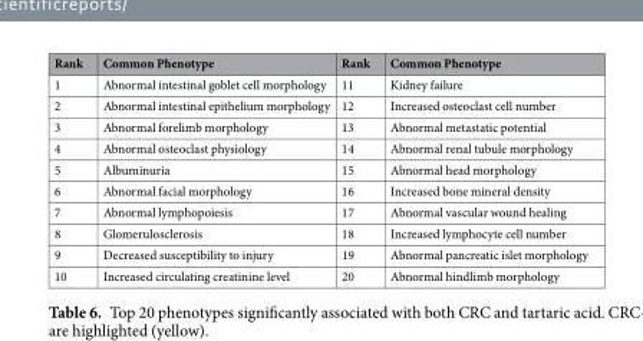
<table><thead><tr><td>Rank</td><td>Common Phenotype</td><td>Rank</td><td>Common Phenotype</td></tr></thead><tbody><tr><td>1</td><td>Abnormal intestinal goblet cell morphology</td><td>11</td><td>Kidney failure</td></tr><tr><td>2</td><td>Abnormal intestinal epithelium morphology</td><td>12</td><td>Increased osteoclast cell number</td></tr><tr><td>3</td><td>Abnormal forelimb morphology</td><td>13</td><td>Abnormal metastatic potential</td></tr><tr><td>4</td><td>Abnormal osteoclast physiology</td><td>14</td><td>Abnormal renal tubule morphology</td></tr><tr><td>5</td><td>Albuminuria</td><td>15</td><td>Abnormal head morphology</td></tr><tr><td>6</td><td>Abnormal facial morphology</td><td>16</td><td>Increased bone mineral density</td></tr><tr><td>7</td><td>Abnormal lymphopoiesis</td><td>17</td><td>Abnormal vascular wound healing</td></tr><tr><td>8</td><td>Glomerulosclerosis</td><td>18</td><td>Increased lymphocyte cell number</td></tr><tr><td>9</td><td>Decreased susceptibility to injury</td><td>19</td><td>Abnormal pancreatic islet morphology</td></tr><tr><td>10</td><td>Increased circulating creatinine level</td><td>20</td><td>Abnormal hindlimb morphology</td></tr></tbody></table>